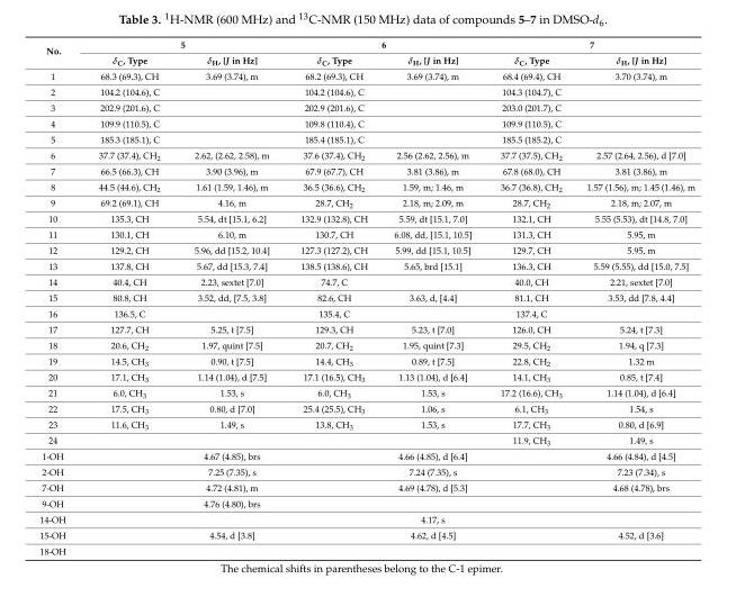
<table><thead><tr><td rowspan="2">No.</td><td colspan="2">5</td><td colspan="2">6</td><td colspan="2">7</td></tr><tr><td>δ<sub>C</sub>, Type</td><td>δ<sub>H</sub>, [J in Hz]</td><td>δ<sub>C</sub>, Type</td><td>δ<sub>H</sub>, [J in Hz]</td><td>δ<sub>C</sub>, Type</td><td>δ<sub>H</sub>, [J in Hz]</td></tr></thead><tbody><tr><td>1</td><td>68.3 (69.3), CH</td><td>3.69 (3.74), m</td><td>68.2 (69.3), CH</td><td>3.69 (3.74), m</td><td>68.4 (69.4), CH</td><td>3.70 (3.74), m</td></tr><tr><td>2</td><td>104.2 (104.6), C</td><td></td><td>104.2 (104.6), C</td><td></td><td>104.3 (104.7), C</td><td></td></tr><tr><td>3</td><td>202.9 (201.6), C</td><td></td><td>202.9 (201.6), C</td><td></td><td>203.0 (201.7), C</td><td></td></tr><tr><td>4</td><td>109.9 (110.5), C</td><td></td><td>109.8 (110.4), C</td><td></td><td>109.9 (110.5), C</td><td></td></tr><tr><td>5</td><td>185.3 (185.1), C</td><td></td><td>185.4 (185.1), C</td><td></td><td>185.5 (185.2), C</td><td></td></tr><tr><td>6</td><td>37.7 (37.4), CH<sub>2</sub></td><td>2.62, (2.62, 2.58), m</td><td>37.6 (37.4), CH<sub>2</sub></td><td>2.56 (2.62, 2.56), m</td><td>37.7 (37.5), CH<sub>2</sub></td><td>2.57 (2.64, 2.56), d [7.0]</td></tr><tr><td>7</td><td>66.5 (66.3), CH</td><td>3.90 (3.96), m</td><td>67.9 (67.7), CH</td><td>3.81 (3.86), m</td><td>67.8 (68.0), CH</td><td>3.81 (3.86), m</td></tr><tr><td>8</td><td>44.5 (44.6), CH<sub>2</sub></td><td>1.61 (1.59, 1.46), m</td><td>36.5 (36.6), CH<sub>2</sub></td><td>1.59, m; 1.46, m</td><td>36.7 (36.8), CH<sub>2</sub></td><td>1.57 (1.56), m; 1.45 (1.46), m</td></tr><tr><td>9</td><td>69.2 (69.1), CH</td><td>4.16, m</td><td>28.7, CH<sub>2</sub></td><td>2.18, m; 2.09, m</td><td>28.7, CH<sub>2</sub></td><td>2.18, m; 2.07, m</td></tr><tr><td>10</td><td>135.3, CH</td><td>5.54, dt [15.1, 6.2]</td><td>132.9 (132.8), CH</td><td>5.59, dt [15.1, 7.0]</td><td>132.1, CH</td><td>5.55 (5.53), dt [14.8, 7.0]</td></tr><tr><td>11</td><td>130.1, CH</td><td>6.10, m</td><td>130.7, CH</td><td>6.08, dd, [15.1, 10.5]</td><td>131.3, CH</td><td>5.95, m</td></tr><tr><td>12</td><td>129.2, CH</td><td>5.96, dd [15.2, 10.4]</td><td>127.3 (127.2), CH</td><td>5.99, dd [15.1, 10.5]</td><td>129.7, CH</td><td>5.95, m</td></tr><tr><td>13</td><td>137.8, CH</td><td>5.67, dd [15.3, 7.4]</td><td>138.5 (138.6), CH</td><td>5.65, brd [15.1]</td><td>136.3, CH</td><td>5.59 (5.55), dd [15.0, 7.5]</td></tr><tr><td>14</td><td>40.4, CH</td><td>2.23, sextet [7.0]</td><td>74.7, C</td><td></td><td>40.0, CH</td><td>2.21, sextet [7.0]</td></tr><tr><td>15</td><td>80.8, CH</td><td>3.52, dd, [7.5, 3.8]</td><td>82.6, CH</td><td>3.63, d, [4.4]</td><td>81.1, CH</td><td>3.53, dd [7.8, 4.4]</td></tr><tr><td>16</td><td>136.5, C</td><td></td><td>135.4, C</td><td></td><td>137.4, C</td><td></td></tr><tr><td>17</td><td>127.7, CH</td><td>5.25, t [7.5]</td><td>129.3, CH</td><td>5.23, t [7.0]</td><td>126.0, CH</td><td>5.24, t [7.3]</td></tr><tr><td>18</td><td>20.6, CH<sub>2</sub></td><td>1.97, quint [7.5]</td><td>20.7, CH<sub>2</sub></td><td>1.95, quint [7.3]</td><td>29.5, CH<sub>2</sub></td><td>1.94, q [7.3]</td></tr><tr><td>19</td><td>14.5, CH<sub>3</sub></td><td>0.90, t [7.5]</td><td>14.4, CH<sub>3</sub></td><td>0.89, t [7.5]</td><td>22.8, CH<sub>2</sub></td><td>1.32 m</td></tr><tr><td>20</td><td>17.1, CH<sub>3</sub></td><td>1.14 (1.04), d [7.5]</td><td>17.1 (16.5), CH<sub>3</sub></td><td>1.13 (1.04), d [6.4]</td><td>14.1, CH<sub>3</sub></td><td>0.85, t [7.4]</td></tr><tr><td>21</td><td>6.0, CH<sub>3</sub></td><td>1.53, s</td><td>6.0, CH<sub>3</sub></td><td>1.53, s</td><td>17.2 (16.6), CH<sub>3</sub></td><td>1.14 (1.04), d [6.4]</td></tr><tr><td>22</td><td>17.5, CH<sub>3</sub></td><td>0.80, d [7.0]</td><td>25.4 (25.5), CH<sub>3</sub></td><td>1.06, s</td><td>6.1, CH<sub>3</sub></td><td>1.54, s</td></tr><tr><td>23</td><td>11.6, CH<sub>3</sub></td><td>1.49, s</td><td>13.8, CH<sub>3</sub></td><td>1.53, s</td><td>17.7, CH<sub>3</sub></td><td>0.80, d [6.9]</td></tr><tr><td>24</td><td></td><td></td><td></td><td></td><td>11.9, CH<sub>3</sub></td><td>1.49, s</td></tr><tr><td>1-OH</td><td></td><td>4.67 (4.85), brs</td><td></td><td>4.66 (4.85), d [6.4]</td><td></td><td>4.66 (4.84), d [4.5]</td></tr><tr><td>2-OH</td><td></td><td>7.25 (7.35), s</td><td></td><td>7.24 (7.35), s</td><td></td><td>7.23 (7.34), s</td></tr><tr><td>7-OH</td><td></td><td>4.72 (4.81), m</td><td></td><td>4.69 (4.78), d [5.3]</td><td></td><td>4.68 (4.78), brs</td></tr><tr><td>9-OH</td><td></td><td>4.76 (4.80), brs</td><td></td><td></td><td></td><td></td></tr><tr><td>14-OH</td><td></td><td></td><td></td><td>4.17, s</td><td></td><td></td></tr><tr><td>15-OH</td><td></td><td>4.54, d [3.8]</td><td></td><td>4.62, d [4.5]</td><td></td><td>4.52, d [3.6]</td></tr><tr><td>18-OH</td><td></td><td></td><td></td><td></td><td></td><td></td></tr></tbody></table>